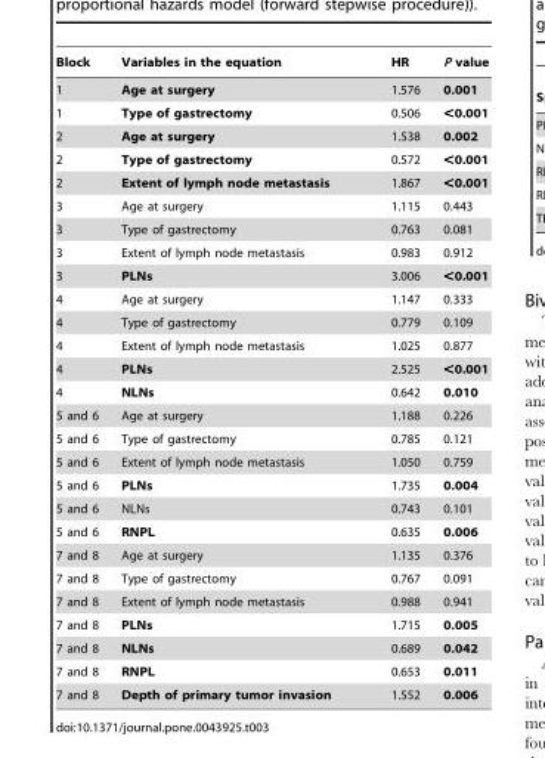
<table><thead><tr><td>Block</td><td>Variables in the equation</td><td>HR</td><td>P value</td></tr></thead><tbody><tr><td>1</td><td>Age at surgery</td><td>1.576</td><td>0.001</td></tr><tr><td>1</td><td>Type of gastrectomy</td><td>0.506</td><td>&lt;0.001</td></tr><tr><td>2</td><td>Age at surgery</td><td>1.538</td><td>0.002</td></tr><tr><td>2</td><td>Type of gastrectomy</td><td>0.572</td><td>&lt;0.001</td></tr><tr><td>2</td><td>Extent of lymph node metastasis</td><td>1.867</td><td>&lt;0.001</td></tr><tr><td>3</td><td>Age at surgery</td><td>1.115</td><td>0.443</td></tr><tr><td>3</td><td>Type of gastrectomy</td><td>0.763</td><td>0.081</td></tr><tr><td>3</td><td>Extent of lymph node metastasis</td><td>0.983</td><td>0.912</td></tr><tr><td>3</td><td>PLNs</td><td>3.006</td><td>&lt;0.001</td></tr><tr><td>4</td><td>Age at surgery</td><td>1.147</td><td>0.333</td></tr><tr><td>4</td><td>Type of gastrectomy</td><td>0.779</td><td>0.109</td></tr><tr><td>4</td><td>Extent of lymph node metastasis</td><td>1.025</td><td>0.877</td></tr><tr><td>4</td><td>PLNs</td><td>2.525</td><td>&lt;0.001</td></tr><tr><td>4</td><td>NLNs</td><td>0.642</td><td>0.010</td></tr><tr><td>5 and 6</td><td>Age at surgery</td><td>1.188</td><td>0.226</td></tr><tr><td>5 and 6</td><td>Type of gastrectomy</td><td>0.785</td><td>0.121</td></tr><tr><td>5 and 6</td><td>Extent of lymph node metastasis</td><td>1.050</td><td>0.759</td></tr><tr><td>5 and 6</td><td>PLNs</td><td>1.735</td><td>0.004</td></tr><tr><td>5 and 6</td><td>NLNs</td><td>0.743</td><td>0.101</td></tr><tr><td>5 and 6</td><td>RNPL</td><td>0.635</td><td>0.006</td></tr><tr><td>7 and 8</td><td>Age at surgery</td><td>1.135</td><td>0.376</td></tr><tr><td>7 and 8</td><td>Type of gastrectomy</td><td>0.767</td><td>0.091</td></tr><tr><td>7 and 8</td><td>Extent of lymph node metastasis</td><td>0.988</td><td>0.941</td></tr><tr><td>7 and 8</td><td>PLNs</td><td>1.715</td><td>0.005</td></tr><tr><td>7 and 8</td><td>NLNs</td><td>0.689</td><td>0.042</td></tr><tr><td>7 and 8</td><td>RNPL</td><td>0.653</td><td>0.011</td></tr><tr><td>7 and 8</td><td>Depth of primary tumor invasion</td><td>1.552</td><td>0.006</td></tr></tbody></table>